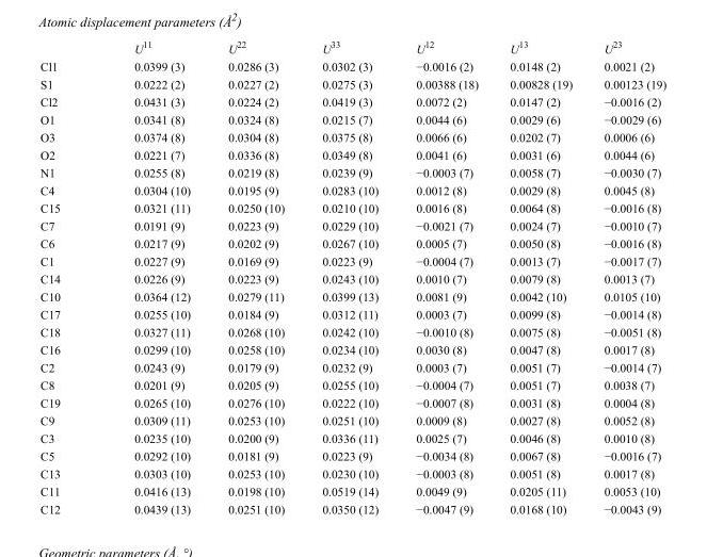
<table><thead><tr><td></td><td>U<sup>11</sup></td><td>U<sup>22</sup></td><td>U<sup>33</sup></td><td>U<sup>12</sup></td><td>U<sup>13</sup></td><td>U<sup>23</sup></td></tr></thead><tbody><tr><td>Cl1</td><td>0.0399 (3)</td><td>0.0286 (3)</td><td>0.0302 (3)</td><td>−0.0016 (2)</td><td>0.0148 (2)</td><td>0.0021 (2)</td></tr><tr><td>S1</td><td>0.0222 (2)</td><td>0.0227 (2)</td><td>0.0275 (3)</td><td>0.00388 (18)</td><td>0.00828 (19)</td><td>0.00123 (19)</td></tr><tr><td>Cl2</td><td>0.0431 (3)</td><td>0.0224 (2)</td><td>0.0419 (3)</td><td>0.0072 (2)</td><td>0.0147 (2)</td><td>−0.0016 (2)</td></tr><tr><td>O1</td><td>0.0341 (8)</td><td>0.0324 (8)</td><td>0.0215 (7)</td><td>0.0044 (6)</td><td>0.0029 (6)</td><td>−0.0029 (6)</td></tr><tr><td>O3</td><td>0.0374 (8)</td><td>0.0304 (8)</td><td>0.0375 (8)</td><td>0.0066 (6)</td><td>0.0202 (7)</td><td>0.0006 (6)</td></tr><tr><td>O2</td><td>0.0221 (7)</td><td>0.0336 (8)</td><td>0.0349 (8)</td><td>0.0041 (6)</td><td>0.0031 (6)</td><td>0.0044 (6)</td></tr><tr><td>N1</td><td>0.0255 (8)</td><td>0.0219 (8)</td><td>0.0239 (9)</td><td>−0.0003 (7)</td><td>0.0058 (7)</td><td>−0.0030 (7)</td></tr><tr><td>C4</td><td>0.0304 (10)</td><td>0.0195 (9)</td><td>0.0283 (10)</td><td>0.0012 (8)</td><td>0.0029 (8)</td><td>0.0045 (8)</td></tr><tr><td>C15</td><td>0.0321 (11)</td><td>0.0250 (10)</td><td>0.0210 (10)</td><td>0.0016 (8)</td><td>0.0064 (8)</td><td>−0.0016 (8)</td></tr><tr><td>C7</td><td>0.0191 (9)</td><td>0.0223 (9)</td><td>0.0229 (10)</td><td>−0.0021 (7)</td><td>0.0024 (7)</td><td>−0.0010 (7)</td></tr><tr><td>C6</td><td>0.0217 (9)</td><td>0.0202 (9)</td><td>0.0267 (10)</td><td>0.0005 (7)</td><td>0.0050 (8)</td><td>−0.0016 (8)</td></tr><tr><td>C1</td><td>0.0227 (9)</td><td>0.0169 (9)</td><td>0.0223 (9)</td><td>−0.0004 (7)</td><td>0.0013 (7)</td><td>−0.0017 (7)</td></tr><tr><td>C14</td><td>0.0226 (9)</td><td>0.0223 (9)</td><td>0.0243 (10)</td><td>0.0010 (7)</td><td>0.0079 (8)</td><td>0.0013 (7)</td></tr><tr><td>C10</td><td>0.0364 (12)</td><td>0.0279 (11)</td><td>0.0399 (13)</td><td>0.0081 (9)</td><td>0.0042 (10)</td><td>0.0105 (10)</td></tr><tr><td>C17</td><td>0.0255 (10)</td><td>0.0184 (9)</td><td>0.0312 (11)</td><td>0.0003 (7)</td><td>0.0099 (8)</td><td>−0.0014 (8)</td></tr><tr><td>C18</td><td>0.0327 (11)</td><td>0.0268 (10)</td><td>0.0242 (10)</td><td>−0.0010 (8)</td><td>0.0075 (8)</td><td>−0.0051 (8)</td></tr><tr><td>C16</td><td>0.0299 (10)</td><td>0.0258 (10)</td><td>0.0234 (10)</td><td>0.0030 (8)</td><td>0.0047 (8)</td><td>0.0017 (8)</td></tr><tr><td>C2</td><td>0.0243 (9)</td><td>0.0179 (9)</td><td>0.0232 (9)</td><td>0.0003 (7)</td><td>0.0051 (7)</td><td>−0.0014 (7)</td></tr><tr><td>C8</td><td>0.0201 (9)</td><td>0.0205 (9)</td><td>0.0255 (10)</td><td>−0.0004 (7)</td><td>0.0051 (7)</td><td>0.0038 (7)</td></tr><tr><td>C19</td><td>0.0265 (10)</td><td>0.0276 (10)</td><td>0.0222 (10)</td><td>−0.0007 (8)</td><td>0.0031 (8)</td><td>0.0004 (8)</td></tr><tr><td>C9</td><td>0.0309 (11)</td><td>0.0253 (10)</td><td>0.0251 (10)</td><td>0.0009 (8)</td><td>0.0027 (8)</td><td>0.0052 (8)</td></tr><tr><td>C3</td><td>0.0235 (10)</td><td>0.0200 (9)</td><td>0.0336 (11)</td><td>0.0025 (7)</td><td>0.0046 (8)</td><td>0.0010 (8)</td></tr><tr><td>C5</td><td>0.0292 (10)</td><td>0.0181 (9)</td><td>0.0223 (9)</td><td>−0.0034 (8)</td><td>0.0067 (8)</td><td>−0.0016 (7)</td></tr><tr><td>C13</td><td>0.0303 (10)</td><td>0.0253 (10)</td><td>0.0230 (10)</td><td>−0.0003 (8)</td><td>0.0051 (8)</td><td>0.0017 (8)</td></tr><tr><td>C11</td><td>0.0416 (13)</td><td>0.0198 (10)</td><td>0.0519 (14)</td><td>0.0049 (9)</td><td>0.0205 (11)</td><td>0.0053 (10)</td></tr><tr><td>C12</td><td>0.0439 (13)</td><td>0.0251 (10)</td><td>0.0350 (12)</td><td>−0.0047 (9)</td><td>0.0168 (10)</td><td>−0.0043 (9)</td></tr></tbody></table>